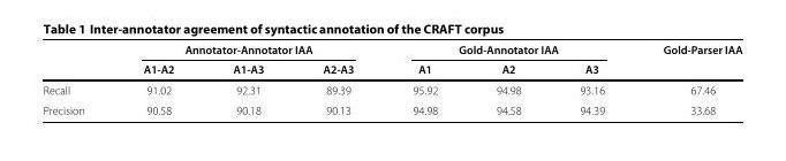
<table><thead><tr><td rowspan="2"></td><td colspan="3">Annotator-Annotator IAA</td><td colspan="3">Gold-Annotator IAA</td><td rowspan="2">Gold-Parser IAA</td></tr><tr><td>A1-A2</td><td>A1-A3</td><td>A2-A3</td><td>A1</td><td>A2</td><td>A3</td></tr></thead><tbody><tr><td>Recall</td><td>91.02</td><td>92.31</td><td>89.39</td><td>95.92</td><td>94.98</td><td>93.16</td><td>67.46</td></tr><tr><td>Precision</td><td>90.58</td><td>90.18</td><td>90.13</td><td>94.98</td><td>94.58</td><td>94.39</td><td>33.68</td></tr></tbody></table>